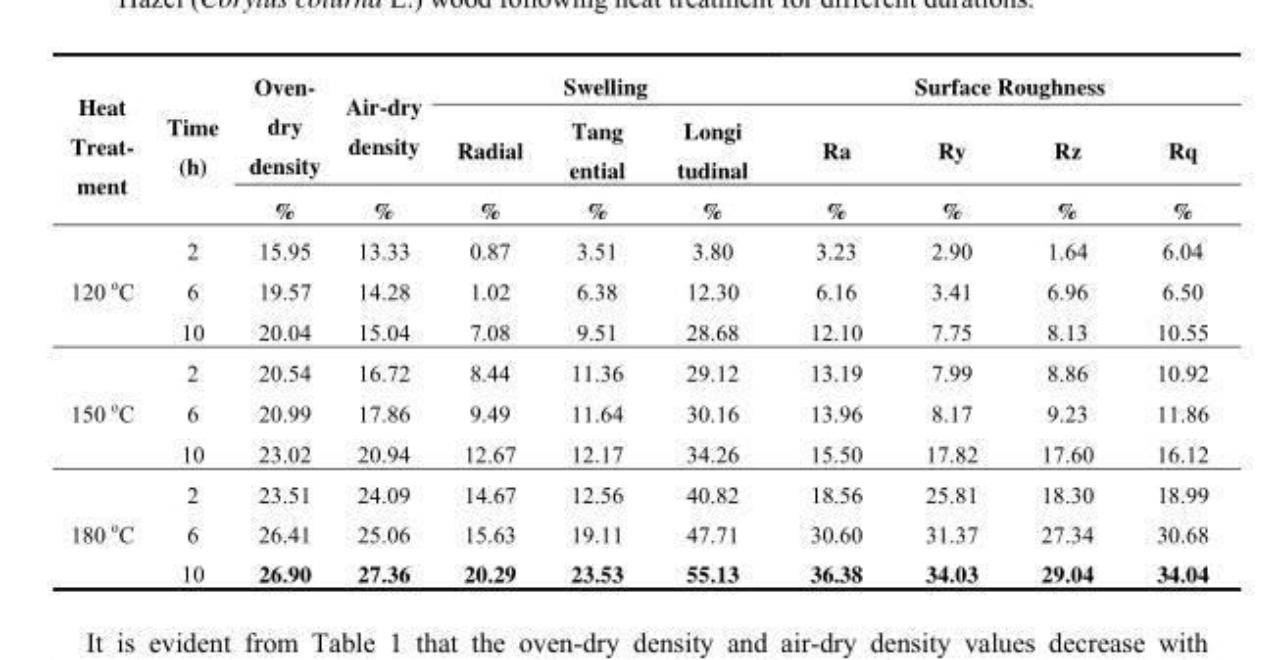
<table><thead><tr><td rowspan="3">Heat Treat- ment</td><td rowspan="3">Time (h)</td><td rowspan="3">Oven- dry density %</td><td rowspan="3">Air-dry density %</td><td colspan="3">Swelling</td><td colspan="4">Surface Roughness</td></tr><tr><td rowspan="2">Radial %</td><td rowspan="2">Tang ential %</td><td rowspan="2">Longi tudinal %</td><td rowspan="2">Ra %</td><td rowspan="2">Ry %</td><td rowspan="2">Rz %</td><td rowspan="2">Rq %</td></tr><tr></tr></thead><tbody><tr><td rowspan="3">120 °C</td><td>2</td><td>15.95</td><td>13.33</td><td>0.87</td><td>3.51</td><td>3.80</td><td>3.23</td><td>2.90</td><td>1.64</td><td>6.04</td></tr><tr><td>6</td><td>19.57</td><td>14.28</td><td>1.02</td><td>6.38</td><td>12.30</td><td>6.16</td><td>3.41</td><td>6.96</td><td>6.50</td></tr><tr><td>10</td><td>20.04</td><td>15.04</td><td>7.08</td><td>9.51</td><td>28.68</td><td>12.10</td><td>7.75</td><td>8.13</td><td>10.55</td></tr><tr><td rowspan="3">150 °C</td><td>2</td><td>20.54</td><td>16.72</td><td>8.44</td><td>11.36</td><td>29.12</td><td>13.19</td><td>7.99</td><td>8.86</td><td>10.92</td></tr><tr><td>6</td><td>20.99</td><td>17.86</td><td>9.49</td><td>11.64</td><td>30.16</td><td>13.96</td><td>8.17</td><td>9.23</td><td>11.86</td></tr><tr><td>10</td><td>23.02</td><td>20.94</td><td>12.67</td><td>12.17</td><td>34.26</td><td>15.50</td><td>17.82</td><td>17.60</td><td>16.12</td></tr><tr><td rowspan="3">180 °C</td><td>2</td><td>23.51</td><td>24.09</td><td>14.67</td><td>12.56</td><td>40.82</td><td>18.56</td><td>25.81</td><td>18.30</td><td>18.99</td></tr><tr><td>6</td><td>26.41</td><td>25.06</td><td>15.63</td><td>19.11</td><td>47.71</td><td>30.60</td><td>31.37</td><td>27.34</td><td>30.68</td></tr><tr><td>10</td><td>26.90</td><td>27.36</td><td>20.29</td><td>23.53</td><td>55.13</td><td>36.38</td><td>34.03</td><td>29.04</td><td>34.04</td></tr></tbody></table>